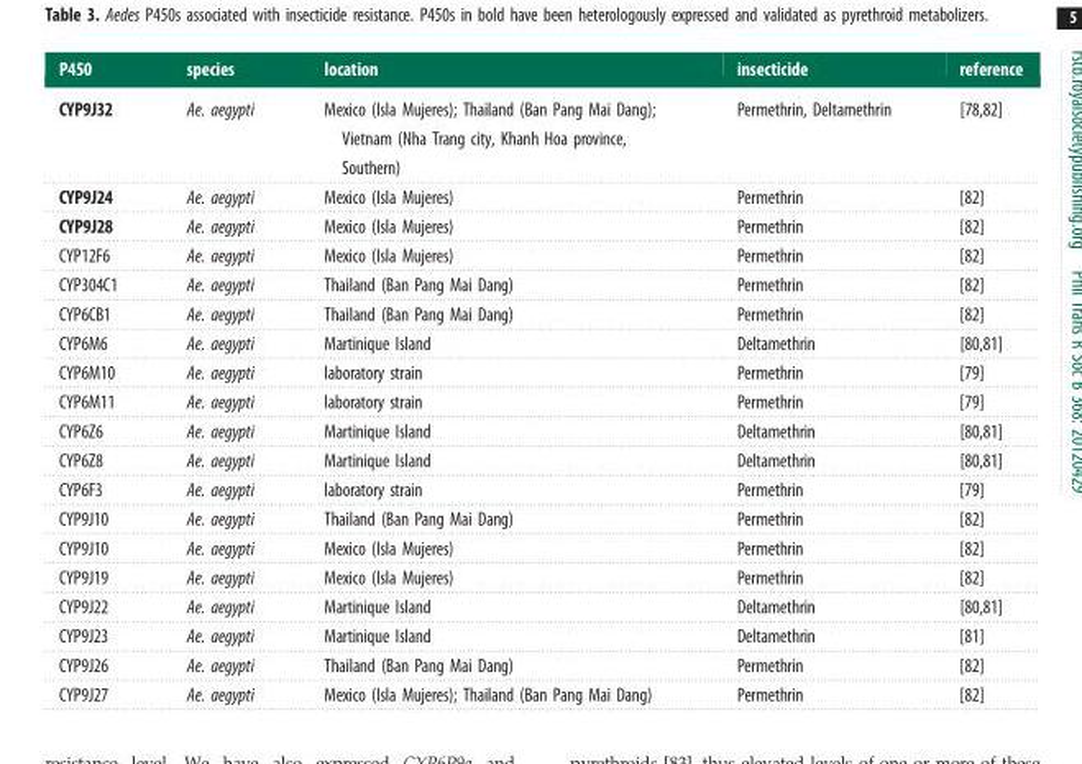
<table><thead><tr><td>P450</td><td>species</td><td>location</td><td>insecticide</td><td>reference</td></tr></thead><tbody><tr><td>CYP9J32</td><td>Ae. aegypti</td><td>Mexico (Isla Mujeres); Thailand (Ban Pang Mai Dang); Vietnam (Nha Trang city, Khanh Hoa province, Southern)</td><td>Permethrin, Deltamethrin</td><td>[78,82]</td></tr><tr><td>CYP9J24</td><td>Ae. aegypti</td><td>Mexico (Isla Mujeres)</td><td>Permethrin</td><td>[82]</td></tr><tr><td>CYP9J28</td><td>Ae. aegypti</td><td>Mexico (Isla Mujeres)</td><td>Permethrin</td><td>[82]</td></tr><tr><td>CYP12F6</td><td>Ae. aegypti</td><td>Mexico (Isla Mujeres)</td><td>Permethrin</td><td>[82]</td></tr><tr><td>CYP304C1</td><td>Ae. aegypti</td><td>Thailand (Ban Pang Mai Dang)</td><td>Permethrin</td><td>[82]</td></tr><tr><td>CYP6CB1</td><td>Ae. aegypti</td><td>Thailand (Ban Pang Mai Dang)</td><td>Permethrin</td><td>[82]</td></tr><tr><td>CYP6M6</td><td>Ae. aegypti</td><td>Martinique Island</td><td>Deltamethrin</td><td>[80,81]</td></tr><tr><td>CYP6M10</td><td>Ae. aegypti</td><td>laboratory strain</td><td>Permethrin</td><td>[79]</td></tr><tr><td>CYP6M11</td><td>Ae. aegypti</td><td>laboratory strain</td><td>Permethrin</td><td>[79]</td></tr><tr><td>CYP6Z6</td><td>Ae. aegypti</td><td>Martinique Island</td><td>Deltamethrin</td><td>[80,81]</td></tr><tr><td>CYP6Z8</td><td>Ae. aegypti</td><td>Martinique Island</td><td>Deltamethrin</td><td>[80,81]</td></tr><tr><td>CYP6F3</td><td>Ae. aegypti</td><td>laboratory strain</td><td>Permethrin</td><td>[79]</td></tr><tr><td>CYP9J10</td><td>Ae. aegypti</td><td>Thailand (Ban Pang Mai Dang)</td><td>Permethrin</td><td>[82]</td></tr><tr><td>CYP9J10</td><td>Ae. aegypti</td><td>Mexico (Isla Mujeres)</td><td>Permethrin</td><td>[82]</td></tr><tr><td>CYP9J19</td><td>Ae. aegypti</td><td>Mexico (Isla Mujeres)</td><td>Permethrin</td><td>[82]</td></tr><tr><td>CYP9J22</td><td>Ae. aegypti</td><td>Martinique Island</td><td>Deltamethrin</td><td>[80,81]</td></tr><tr><td>CYP9J23</td><td>Ae. aegypti</td><td>Martinique Island</td><td>Deltamethrin</td><td>[81]</td></tr><tr><td>CYP9J26</td><td>Ae. aegypti</td><td>Thailand (Ban Pang Mai Dang)</td><td>Permethrin</td><td>[82]</td></tr><tr><td>CYP9J27</td><td>Ae. aegypti</td><td>Mexico (Isla Mujeres); Thailand (Ban Pang Mai Dang)</td><td>Permethrin</td><td>[82]</td></tr></tbody></table>